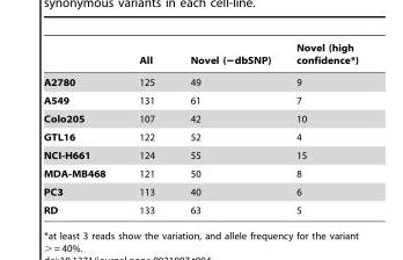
<table><thead><tr><td></td><td>All</td><td>Novel (−dbSNP)</td><td>Novel (high confidence*)</td></tr></thead><tbody><tr><td>A2780</td><td>125</td><td>49</td><td>9</td></tr><tr><td>A549</td><td>131</td><td>61</td><td>7</td></tr><tr><td>Colo205</td><td>107</td><td>42</td><td>10</td></tr><tr><td>GTL16</td><td>122</td><td>52</td><td>4</td></tr><tr><td>NCI-H661</td><td>124</td><td>55</td><td>15</td></tr><tr><td>MDA-MB468</td><td>121</td><td>50</td><td>8</td></tr><tr><td>PC3</td><td>113</td><td>40</td><td>6</td></tr><tr><td>RD</td><td>133</td><td>63</td><td>5</td></tr></tbody></table>